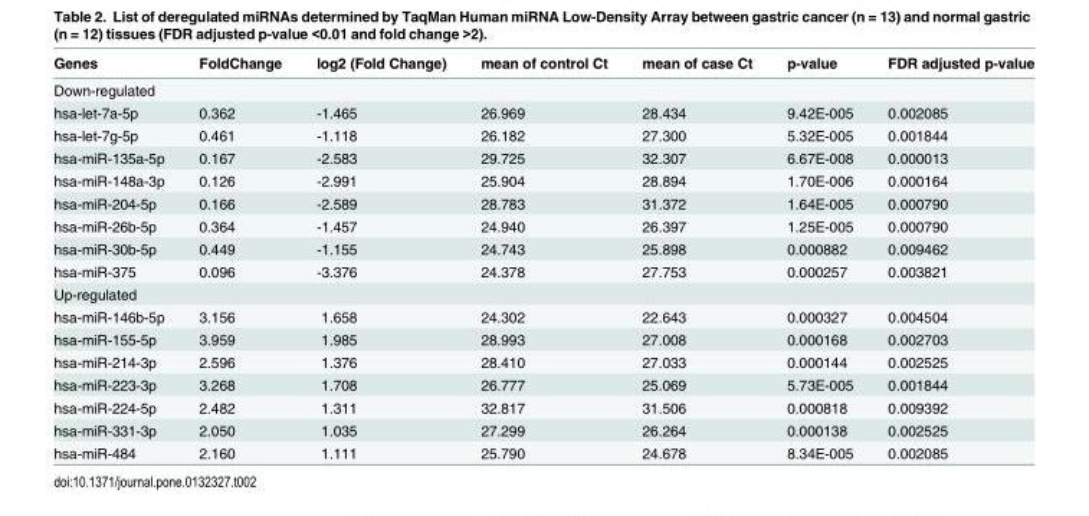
<table><thead><tr><td>Genes</td><td>FoldChange</td><td>log2 (Fold Change)</td><td>mean of control Ct</td><td>mean of case Ct</td><td>p-value</td><td>FDR adjusted p-value</td></tr></thead><tbody><tr><td colspan="7">Down-regulated</td></tr><tr><td>hsa-let-7a-5p</td><td>0.362</td><td>-1.465</td><td>26.969</td><td>28.434</td><td>9.42E-005</td><td>0.002085</td></tr><tr><td>hsa-let-7g-5p</td><td>0.461</td><td>-1.118</td><td>26.182</td><td>27.300</td><td>5.32E-005</td><td>0.001844</td></tr><tr><td>hsa-miR-135a-5p</td><td>0.167</td><td>-2.583</td><td>29.725</td><td>32.307</td><td>6.67E-008</td><td>0.000013</td></tr><tr><td>hsa-miR-148a-3p</td><td>0.126</td><td>-2.991</td><td>25.904</td><td>28.894</td><td>1.70E-006</td><td>0.000164</td></tr><tr><td>hsa-miR-204-5p</td><td>0.166</td><td>-2.589</td><td>28.783</td><td>31.372</td><td>1.64E-005</td><td>0.000790</td></tr><tr><td>hsa-miR-26b-5p</td><td>0.364</td><td>-1.457</td><td>24.940</td><td>26.397</td><td>1.25E-005</td><td>0.000790</td></tr><tr><td>hsa-miR-30b-5p</td><td>0.449</td><td>-1.155</td><td>24.743</td><td>25.898</td><td>0.000882</td><td>0.009462</td></tr><tr><td>hsa-miR-375</td><td>0.096</td><td>-3.376</td><td>24.378</td><td>27.753</td><td>0.000257</td><td>0.003821</td></tr><tr><td colspan="7">Up-regulated</td></tr><tr><td>hsa-miR-146b-5p</td><td>3.156</td><td>1.658</td><td>24.302</td><td>22.643</td><td>0.000327</td><td>0.004504</td></tr><tr><td>hsa-miR-155-5p</td><td>3.959</td><td>1.985</td><td>28.993</td><td>27.008</td><td>0.000168</td><td>0.002703</td></tr><tr><td>hsa-miR-214-3p</td><td>2.596</td><td>1.376</td><td>28.410</td><td>27.033</td><td>0.000144</td><td>0.002525</td></tr><tr><td>hsa-miR-223-3p</td><td>3.268</td><td>1.708</td><td>26.777</td><td>25.069</td><td>5.73E-005</td><td>0.001844</td></tr><tr><td>hsa-miR-224-5p</td><td>2.482</td><td>1.311</td><td>32.817</td><td>31.506</td><td>0.000818</td><td>0.009392</td></tr><tr><td>hsa-miR-331-3p</td><td>2.050</td><td>1.035</td><td>27.299</td><td>26.264</td><td>0.000138</td><td>0.002525</td></tr><tr><td>hsa-miR-484</td><td>2.160</td><td>1.111</td><td>25.790</td><td>24.678</td><td>8.34E-005</td><td>0.002085</td></tr></tbody></table>